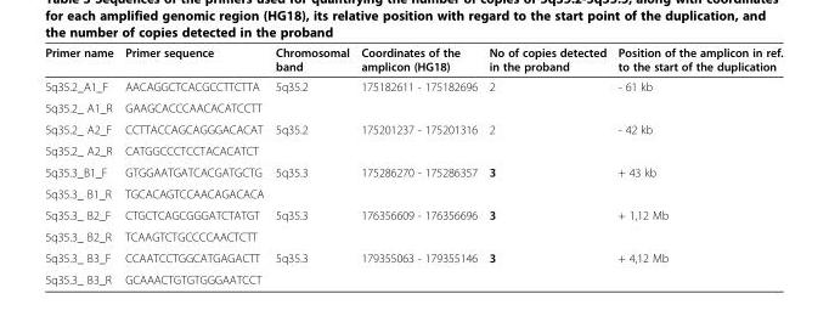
<table><thead><tr><td>Primer name</td><td>Primer sequence</td><td>Chromosomal band</td><td>Coordinates of the amplicon (HG18)</td><td>No of copies detected in the proband</td><td>Position of the amplicon in ref. to the start of the duplication</td></tr></thead><tbody><tr><td>5q35.2_A1_F</td><td>AACAGGCTCACGCCTTCTTA</td><td rowspan="2">5q35.2</td><td rowspan="2">175182611 - 175182696</td><td rowspan="2">2</td><td rowspan="2">- 61 kb</td></tr><tr><td>5q35.2_ A1_R</td><td>GAAGCACCCAACACATCCTT</td></tr><tr><td>5q35.2_ A2_F</td><td>CCTTACCAGCAGGGACACAT</td><td rowspan="2">5q35.2</td><td rowspan="2">175201237 - 175201316</td><td rowspan="2">2</td><td rowspan="2">- 42 kb</td></tr><tr><td>5q35.2_ A2_R</td><td>CATGGCCCTCCTACACATCT</td></tr><tr><td>5q35.3_B1_F</td><td>GTGGAATGATCACGATGCTG</td><td rowspan="2">5q35.3</td><td rowspan="2">175286270 - 175286357</td><td rowspan="2">3</td><td rowspan="2">+ 43 kb</td></tr><tr><td>5q35.3_ B1_R</td><td>TGCACAGTCCAACAGACACA</td></tr><tr><td>5q35.3_ B2_F</td><td>CTGCTCAGCGGGATCTATGT</td><td rowspan="2">5q35.3</td><td rowspan="2">176356609 - 176356696</td><td rowspan="2">3</td><td rowspan="2">+ 1,12 Mb</td></tr><tr><td>5q35.3_ B2_R</td><td>TCAAGTCTGCCCCAACTCTT</td></tr><tr><td>5q35.3_ B3_F</td><td>CCAATCCTGGCATGAGACTT</td><td>5q35.3</td><td>179355063 - 179355146</td><td>3</td><td>+ 4,12 Mb</td></tr><tr><td>5q35.3_ B3_R</td><td>GCAAACTGTGTGGGAATCCT</td><td></td><td></td><td></td><td></td></tr></tbody></table>